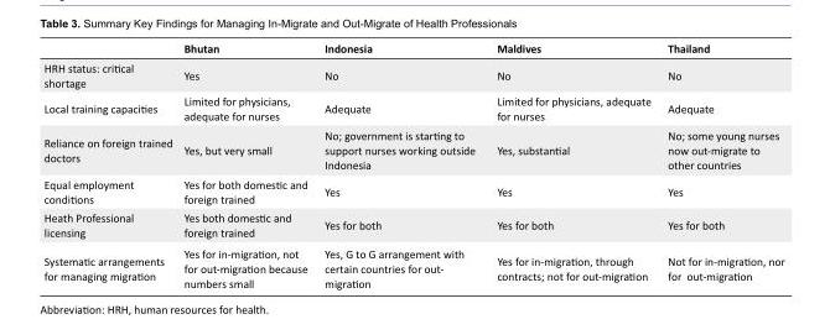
<table><thead><tr><td></td><td>Bhutan</td><td>Indonesia</td><td>Maldives</td><td>Thailand</td></tr></thead><tbody><tr><td>HRH status: critical shortage</td><td>Yes</td><td>No</td><td>No</td><td>No</td></tr><tr><td>Local training capacities</td><td>Limited for physicians, adequate for nurses</td><td>Adequate</td><td>Limited for physicians, adequate for nurses</td><td>Adequate</td></tr><tr><td>Reliance on foreign trained doctors</td><td>Yes, but very small</td><td>No; government is starting to support nurses working outside Indonesia</td><td>Yes, substantial</td><td>No; some young nurses now out-migrate to other countries</td></tr><tr><td>Equal employment conditions</td><td>Yes for both domestic and foreign trained</td><td>Yes</td><td>Yes</td><td>Yes</td></tr><tr><td>Heath Professional licensing</td><td>Yes both domestic and foreign trained</td><td>Yes for both</td><td>Yes for both</td><td>Yes for both</td></tr><tr><td>Systematic arrangements for managing migration</td><td>Yes for in-migration, not for out-migration because numbers small</td><td>Yes, G to G arrangement with certain countries for out- migration</td><td>Yes for in-migration, through contracts; not for out-migration</td><td>Not for in-migration, nor for out-migration</td></tr></tbody></table>